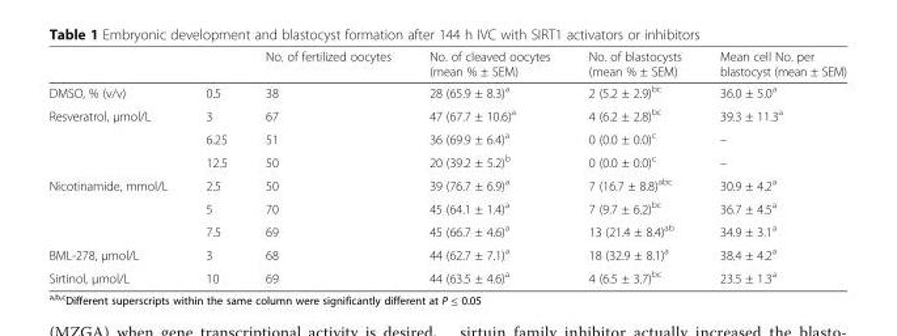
<table><thead><tr><td></td><td></td><td>No. of fertilized oocytes</td><td>No. of cleaved oocytes (mean % ± SEM)</td><td>No. of blastocysts (mean % ± SEM)</td><td>Mean cell No. per blastocyst (mean ± SEM)</td></tr></thead><tbody><tr><td>DMSO, % (v/v)</td><td>0.5</td><td>38</td><td>28 (65.9 ± 8.3)<sup>a</sup></td><td>2 (5.2 ± 2.9)<sup>bc</sup></td><td>36.0 ± 5.0<sup>a</sup></td></tr><tr><td rowspan="3">Resveratrol, μmol/L</td><td>3</td><td>67</td><td>47 (67.7 ± 10.6)<sup>a</sup></td><td>4 (6.2 ± 2.8)<sup>bc</sup></td><td>39.3 ± 11.3<sup>a</sup></td></tr><tr><td>6.25</td><td>51</td><td>36 (69.9 ± 6.4)<sup>a</sup></td><td>0 (0.0 ± 0.0)<sup>c</sup></td><td>–</td></tr><tr><td>12.5</td><td>50</td><td>20 (39.2 ± 5.2)<sup>b</sup></td><td>0 (0.0 ± 0.0)<sup>c</sup></td><td>–</td></tr><tr><td rowspan="3">Nicotinamide, mmol/L</td><td>2.5</td><td>50</td><td>39 (76.7 ± 6.9)<sup>a</sup></td><td>7 (16.7 ± 8.8)<sup>abc</sup></td><td>30.9 ± 4.2<sup>a</sup></td></tr><tr><td>5</td><td>70</td><td>45 (64.1 ± 1.4)<sup>a</sup></td><td>7 (9.7 ± 6.2)<sup>bc</sup></td><td>36.7 ± 4.5<sup>a</sup></td></tr><tr><td>7.5</td><td>69</td><td>45 (66.7 ± 4.6)<sup>a</sup></td><td>13 (21.4 ± 8.4)<sup>ab</sup></td><td>34.9 ± 3.1<sup>a</sup></td></tr><tr><td>BML-278, μmol/L</td><td>3</td><td>68</td><td>44 (62.7 ± 7.1)<sup>a</sup></td><td>18 (32.9 ± 8.1)<sup>a</sup></td><td>38.4 ± 4.2<sup>a</sup></td></tr><tr><td>Sirtinol, μmol/L</td><td>10</td><td>69</td><td>44 (63.5 ± 4.6)<sup>a</sup></td><td>4 (6.5 ± 3.7)<sup>bc</sup></td><td>23.5 ± 1.3<sup>a</sup></td></tr></tbody></table>